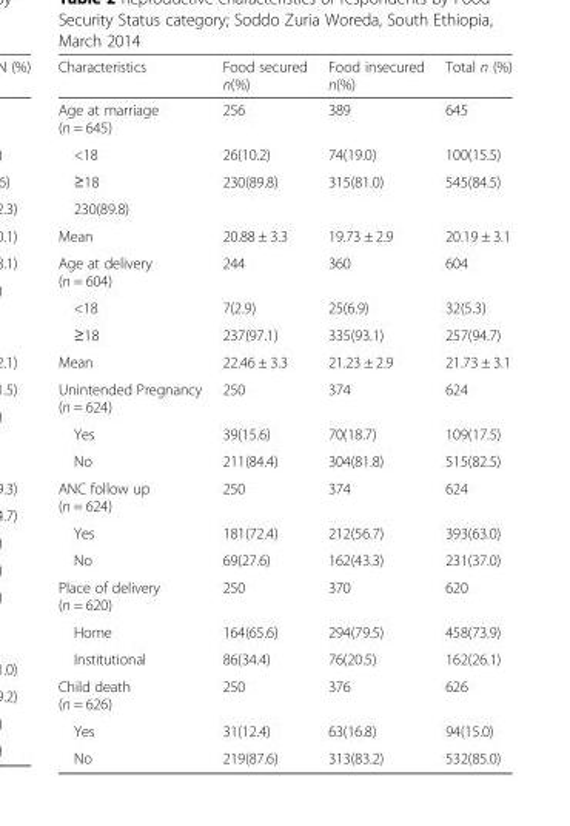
<table><thead><tr><td>Characteristics</td><td>Food secured n(%)</td><td>Food insecured n(%)</td><td>Total n (%)</td></tr></thead><tbody><tr><td>Age at marriage (n = 645)</td><td>256</td><td>389</td><td>645</td></tr><tr><td>&lt;18</td><td>26(10.2)</td><td>74(19.0)</td><td>100(15.5)</td></tr><tr><td>≥18</td><td>230(89.8)</td><td>315(81.0)</td><td>545(84.5)</td></tr><tr><td colspan="4">230(89.8)</td></tr><tr><td>Mean</td><td>20.88 ± 3.3</td><td>19.73 ± 2.9</td><td>20.19 ± 3.1</td></tr><tr><td>Age at delivery (n = 604)</td><td>244</td><td>360</td><td>604</td></tr><tr><td>&lt;18</td><td>7(2.9)</td><td>25(6.9)</td><td>32(5.3)</td></tr><tr><td>≥18</td><td>237(97.1)</td><td>335(93.1)</td><td>257(94.7)</td></tr><tr><td>Mean</td><td>22.46 ± 3.3</td><td>21.23 ± 2.9</td><td>21.73 ± 3.1</td></tr><tr><td>Unintended Pregnancy (n = 624)</td><td>250</td><td>374</td><td>624</td></tr><tr><td>Yes</td><td>39(15.6)</td><td>70(18.7)</td><td>109(17.5)</td></tr><tr><td>No</td><td>211(84.4)</td><td>304(81.8)</td><td>515(82.5)</td></tr><tr><td>ANC follow up (n = 624)</td><td>250</td><td>374</td><td>624</td></tr><tr><td>Yes</td><td>181(72.4)</td><td>212(56.7)</td><td>393(63.0)</td></tr><tr><td>No</td><td>69(27.6)</td><td>162(43.3)</td><td>231(37.0)</td></tr><tr><td>Place of delivery (n = 620)</td><td>250</td><td>370</td><td>620</td></tr><tr><td>Home</td><td>164(65.6)</td><td>294(79.5)</td><td>458(73.9)</td></tr><tr><td>Institutional</td><td>86(34.4)</td><td>76(20.5)</td><td>162(26.1)</td></tr><tr><td>Child death (n = 626)</td><td>250</td><td>376</td><td>626</td></tr><tr><td>Yes</td><td>31(12.4)</td><td>63(16.8)</td><td>94(15.0)</td></tr><tr><td>No</td><td>219(87.6)</td><td>313(83.2)</td><td>532(85.0)</td></tr></tbody></table>